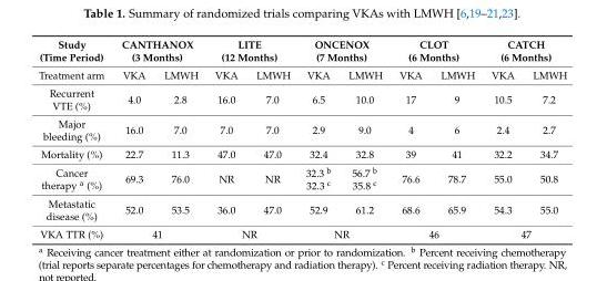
<table><thead><tr><td rowspan="2">Study (Time Period) Treatment arm</td><td colspan="2">CANTHANOX (3 Months)</td><td colspan="2">LITE (12 Months)</td><td colspan="2">ONCENOX (7 Months)</td><td colspan="2">CLOT (6 Months)</td><td colspan="2">CATCH (6 Months)</td></tr><tr><td>VKA</td><td>LMWH</td><td>VKA</td><td>LMWH</td><td>VKA</td><td>LMWH</td><td>VKA</td><td>LMWH</td><td>VKA</td><td>LMWH</td></tr></thead><tbody><tr><td>Recurrent VTE (%)</td><td>4.0</td><td>2.8</td><td>16.0</td><td>7.0</td><td>6.5</td><td>10.0</td><td>17</td><td>9</td><td>10.5</td><td>7.2</td></tr><tr><td>Major bleeding (%)</td><td>16.0</td><td>7.0</td><td>7.0</td><td>7.0</td><td>2.9</td><td>9.0</td><td>4</td><td>6</td><td>2.4</td><td>2.7</td></tr><tr><td>Mortality (%)</td><td>22.7</td><td>11.3</td><td>47.0</td><td>47.0</td><td>32.4</td><td>32.8</td><td>39</td><td>41</td><td>32.2</td><td>34.7</td></tr><tr><td>Cancer therapy <sup>a</sup> (%)</td><td>69.3</td><td>76.0</td><td>NR</td><td>NR</td><td>32.3 <sup>b</sup> 32.3 <sup>c</sup></td><td>56.7 <sup>b</sup> 35.8 <sup>c</sup></td><td>76.6</td><td>78.7</td><td>55.0</td><td>50.8</td></tr><tr><td>Metastatic disease (%)</td><td>52.0</td><td>53.5</td><td>36.0</td><td>47.0</td><td>52.9</td><td>61.2</td><td>68.6</td><td>65.9</td><td>54.3</td><td>55.0</td></tr><tr><td>VKA TTR (%)</td><td colspan="2">41</td><td colspan="2">NR</td><td colspan="2">NR</td><td colspan="2">46</td><td colspan="2">47</td></tr></tbody></table>